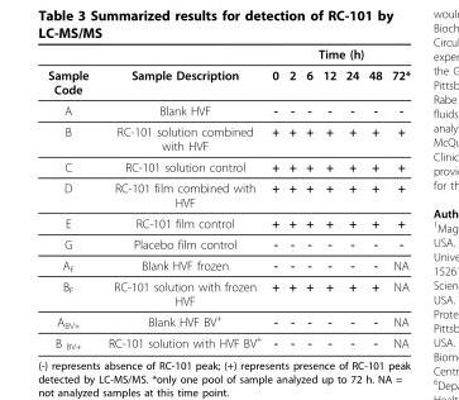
<table><thead><tr><td rowspan="2">Sample Code</td><td rowspan="2">Sample Description</td><td colspan="7">Time (h)</td></tr><tr><td>0</td><td>2</td><td>6</td><td>12</td><td>24</td><td>48</td><td>72*</td></tr></thead><tbody><tr><td>A</td><td>Blank HVF</td><td>-</td><td>-</td><td>-</td><td>-</td><td>-</td><td>-</td><td>-</td></tr><tr><td>B</td><td>RC-101 solution combined with HVF</td><td>+</td><td>+</td><td>+</td><td>+</td><td>+</td><td>+</td><td>+</td></tr><tr><td>C</td><td>RC-101 solution control</td><td>+</td><td>+</td><td>+</td><td>+</td><td>+</td><td>+</td><td>+</td></tr><tr><td>D</td><td>RC-101 film combined with HVF</td><td>+</td><td>+</td><td>+</td><td>+</td><td>+</td><td>+</td><td>+</td></tr><tr><td>E</td><td>RC-101 film control</td><td>+</td><td>+</td><td>+</td><td>+</td><td>+</td><td>+</td><td>+</td></tr><tr><td>G</td><td>Placebo film control</td><td>-</td><td>-</td><td>-</td><td>-</td><td>-</td><td>-</td><td>-</td></tr><tr><td>A<sub>F</sub></td><td>Blank HVF frozen</td><td>-</td><td>-</td><td>-</td><td>-</td><td>-</td><td>-</td><td>NA</td></tr><tr><td>B<sub>F</sub></td><td>RC-101 solution with frozen HVF</td><td>+</td><td>+</td><td>+</td><td>+</td><td>+</td><td>+</td><td>NA</td></tr><tr><td>A<sub>BV+</sub></td><td>Blank HVF BV<sup>+</sup></td><td>-</td><td>-</td><td>-</td><td>-</td><td>-</td><td>-</td><td>NA</td></tr><tr><td>B <sub>BV+</sub></td><td>RC-101 solution with HVF BV<sup>+</sup></td><td>-</td><td>-</td><td>-</td><td>-</td><td>-</td><td>-</td><td>NA</td></tr></tbody></table>